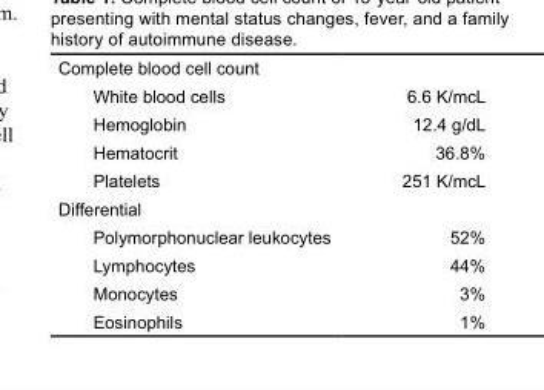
<table><tbody><tr><td colspan="2">Complete blood cell count</td></tr><tr><td>White blood cells</td><td>6.6 K/mcL</td></tr><tr><td>Hemoglobin</td><td>12.4 g/dL</td></tr><tr><td>Hematocrit</td><td>36.8%</td></tr><tr><td>Platelets</td><td>251 K/mcL</td></tr><tr><td colspan="2">Differential</td></tr><tr><td>Polymorphonuclear leukocytes</td><td>52%</td></tr><tr><td>Lymphocytes</td><td>44%</td></tr><tr><td>Monocytes</td><td>3%</td></tr><tr><td>Eosinophils</td><td>1%</td></tr></tbody></table>